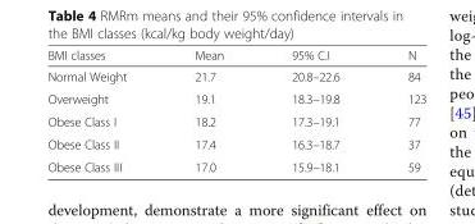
<table><thead><tr><td>BMI classes</td><td>Mean</td><td>95% C.I</td><td>N</td></tr></thead><tbody><tr><td>Normal Weight</td><td>21.7</td><td>20.8–22.6</td><td>84</td></tr><tr><td>Overweight</td><td>19.1</td><td>18.3–19.8</td><td>123</td></tr><tr><td>Obese Class I</td><td>18.2</td><td>17.3–19.1</td><td>77</td></tr><tr><td>Obese Class II</td><td>17.4</td><td>16.3–18.7</td><td>37</td></tr><tr><td>Obese Class III</td><td>17.0</td><td>15.9–18.1</td><td>59</td></tr></tbody></table>